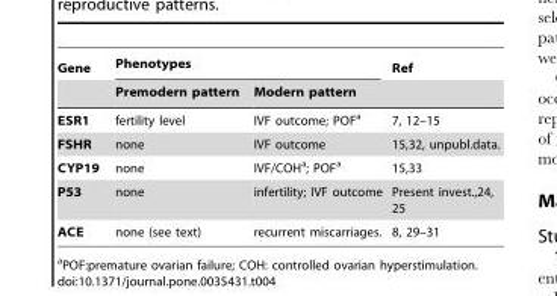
<table><thead><tr><td rowspan="2">Gene</td><td colspan="2">Phenotypes</td><td rowspan="2">Ref</td></tr><tr><td>Premodern pattern</td><td>Modern pattern</td></tr></thead><tbody><tr><td>ESR1</td><td>fertility level</td><td>IVF outcome; POF<sup>a</sup></td><td>7, 12–15</td></tr><tr><td>FSHR</td><td>none</td><td>IVF outcome</td><td>15,32, unpubl.data.</td></tr><tr><td>CYP19</td><td>none</td><td>IVF/COH<sup>a</sup>; POF<sup>a</sup></td><td>15,33</td></tr><tr><td>P53</td><td>none</td><td>infertility; IVF outcome</td><td>Present invest.,24, 25</td></tr><tr><td>ACE</td><td>none (see text)</td><td>recurrent miscarriages.</td><td>8, 29–31</td></tr></tbody></table>